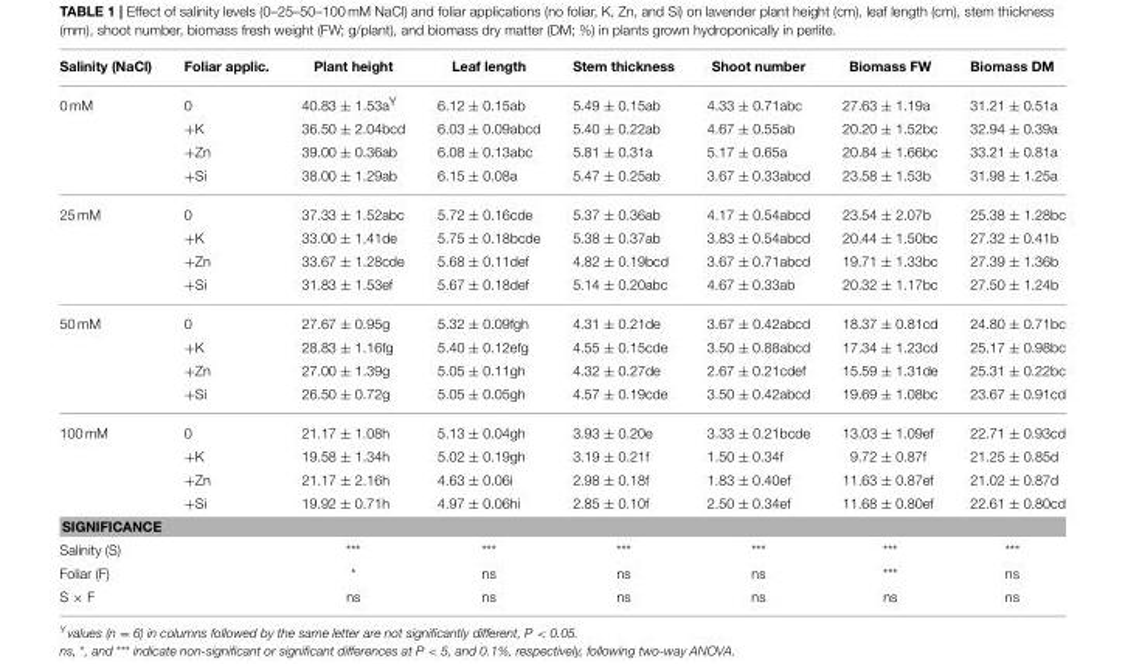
<table><thead><tr><td>Salinity (NaCl)</td><td>Foliar applic.</td><td>Plant height</td><td>Leaf length</td><td>Stem thickness</td><td>Shoot number</td><td>Biomass FW</td><td>Biomass DM</td></tr></thead><tbody><tr><td rowspan="4">0 mM</td><td>0</td><td>40.83 ± 1.53a<sup>Y</sup></td><td>6.12 ± 0.15ab</td><td>5.49 ± 0.15ab</td><td>4.33 ± 0.71abc</td><td>27.63 ± 1.19a</td><td>31.21 ± 0.51a</td></tr><tr><td>+K</td><td>36.50 ± 2.04bcd</td><td>6.03 ± 0.09abcd</td><td>5.40 ± 0.22ab</td><td>4.67 ± 0.55ab</td><td>20.20 ± 1.52bc</td><td>32.94 ± 0.39a</td></tr><tr><td>+Zn</td><td>39.00 ± 0.36ab</td><td>6.08 ± 0.13abc</td><td>5.81 ± 0.31a</td><td>5.17 ± 0.65a</td><td>20.84 ± 1.66bc</td><td>33.21 ± 0.81a</td></tr><tr><td>+Si</td><td>38.00 ± 1.29ab</td><td>6.15 ± 0.08a</td><td>5.47 ± 0.25ab</td><td>3.67 ± 0.33abcd</td><td>23.58 ± 1.53b</td><td>31.98 ± 1.25a</td></tr><tr><td rowspan="4">25 mM</td><td>0</td><td>37.33 ± 1.52abc</td><td>5.72 ± 0.16cde</td><td>5.37 ± 0.36ab</td><td>4.17 ± 0.54abcd</td><td>23.54 ± 2.07b</td><td>25.38 ± 1.28bc</td></tr><tr><td>+K</td><td>33.00 ± 1.41de</td><td>5.75 ± 0.18bcde</td><td>5.38 ± 0.37ab</td><td>3.83 ± 0.54abcd</td><td>20.44 ± 1.50bc</td><td>27.32 ± 0.41b</td></tr><tr><td>+Zn</td><td>33.67 ± 1.28cde</td><td>5.68 ± 0.11def</td><td>4.82 ± 0.19bcd</td><td>3.67 ± 0.71abcd</td><td>19.71 ± 1.33bc</td><td>27.39 ± 1.36b</td></tr><tr><td>+Si</td><td>31.83 ± 1.53ef</td><td>5.67 ± 0.18def</td><td>5.14 ± 0.20abc</td><td>4.67 ± 0.33ab</td><td>20.32 ± 1.17bc</td><td>27.50 ± 1.24b</td></tr><tr><td rowspan="4">50 mM</td><td>0</td><td>27.67 ± 0.95g</td><td>5.32 ± 0.09fgh</td><td>4.31 ± 0.21de</td><td>3.67 ± 0.42abcd</td><td>18.37 ± 0.81cd</td><td>24.80 ± 0.71bc</td></tr><tr><td>+K</td><td>28.83 ± 1.16fg</td><td>5.40 ± 0.12efg</td><td>4.55 ± 0.15cde</td><td>3.50 ± 0.88abcd</td><td>17.34 ± 1.23cd</td><td>25.17 ± 0.98bc</td></tr><tr><td>+Zn</td><td>27.00 ± 1.39g</td><td>5.05 ± 0.11gh</td><td>4.32 ± 0.27de</td><td>2.67 ± 0.21cdef</td><td>15.59 ± 1.31de</td><td>25.31 ± 0.22bc</td></tr><tr><td>+Si</td><td>26.50 ± 0.72g</td><td>5.05 ± 0.05gh</td><td>4.57 ± 0.19cde</td><td>3.50 ± 0.42abcd</td><td>19.69 ± 1.08bc</td><td>23.67 ± 0.91cd</td></tr><tr><td rowspan="4">100 mM</td><td>0</td><td>21.17 ± 1.08h</td><td>5.13 ± 0.04gh</td><td>3.93 ± 0.20e</td><td>3.33 ± 0.21bcde</td><td>13.03 ± 1.09ef</td><td>22.71 ± 0.93cd</td></tr><tr><td>+K</td><td>19.58 ± 1.34h</td><td>5.02 ± 0.19gh</td><td>3.19 ± 0.21f</td><td>1.50 ± 0.34f</td><td>9.72 ± 0.87f</td><td>21.25 ± 0.85d</td></tr><tr><td>+Zn</td><td>21.17 ± 2.16h</td><td>4.63 ± 0.06i</td><td>2.98 ± 0.18f</td><td>1.83 ± 0.40ef</td><td>11.63 ± 0.87ef</td><td>21.02 ± 0.87d</td></tr><tr><td>+Si</td><td>19.92 ± 0.71h</td><td>4.97 ± 0.06hi</td><td>2.85 ± 0.10f</td><td>2.50 ± 0.34ef</td><td>11.68 ± 0.80ef</td><td>22.61 ± 0.80cd</td></tr><tr><td colspan="8">SIGNIFICANCE</td></tr><tr><td colspan="2">Salinity (S)</td><td>***</td><td>***</td><td>***</td><td>***</td><td>***</td><td>***</td></tr><tr><td colspan="2">Foliar (F)</td><td>*</td><td>ns</td><td>ns</td><td>ns</td><td>***</td><td>ns</td></tr><tr><td colspan="2">S × F</td><td>ns</td><td>ns</td><td>ns</td><td>ns</td><td>ns</td><td>ns</td></tr></tbody></table>